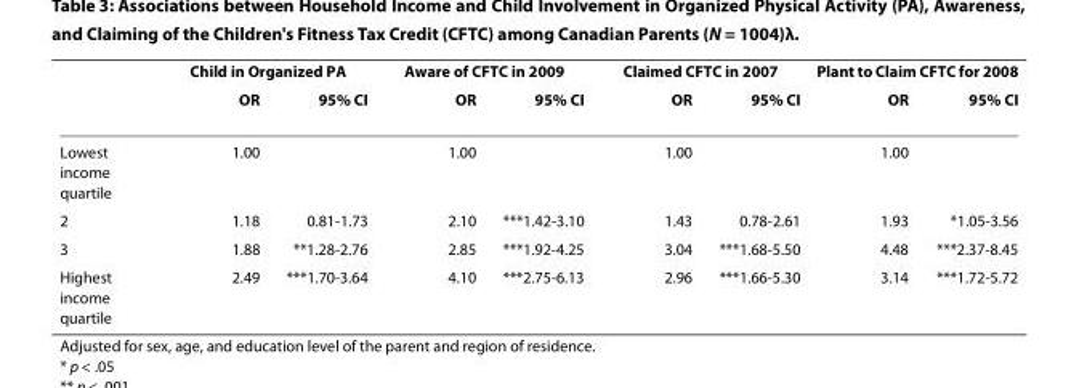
<table><thead><tr><td rowspan="2"></td><td colspan="2">Child in Organized PA</td><td colspan="2">Aware of CFTC in 2009</td><td colspan="2">Claimed CFTC in 2007</td><td colspan="2">Plant to Claim CFTC for 2008</td></tr><tr><td>OR</td><td>95% CI</td><td>OR</td><td>95% CI</td><td>OR</td><td>95% CI</td><td>OR</td><td>95% CI</td></tr></thead><tbody><tr><td>Lowest income quartile</td><td>1.00</td><td></td><td>1.00</td><td></td><td>1.00</td><td></td><td>1.00</td><td></td></tr><tr><td>2</td><td>1.18</td><td>0.81-1.73</td><td>2.10</td><td>***1.42-3.10</td><td>1.43</td><td>0.78-2.61</td><td>1.93</td><td>*1.05-3.56</td></tr><tr><td>3</td><td>1.88</td><td>**1.28-2.76</td><td>2.85</td><td>***1.92-4.25</td><td>3.04</td><td>***1.68-5.50</td><td>4.48</td><td>***2.37-8.45</td></tr><tr><td>Highest income quartile</td><td>2.49</td><td>***1.70-3.64</td><td>4.10</td><td>***2.75-6.13</td><td>2.96</td><td>***1.66-5.30</td><td>3.14</td><td>***1.72-5.72</td></tr></tbody></table>